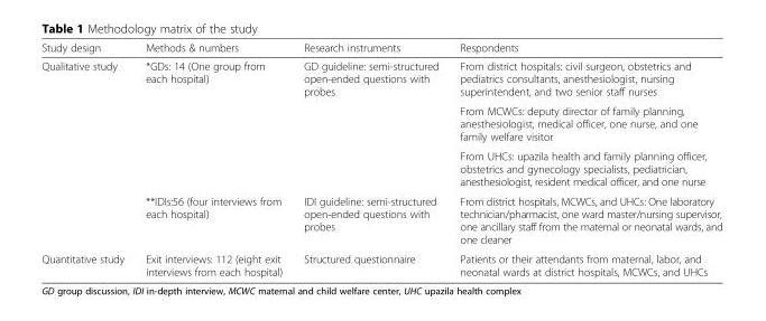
<table><thead><tr><td>Study design</td><td>Methods &amp; numbers</td><td>Research instruments</td><td>Respondents</td></tr></thead><tbody><tr><td rowspan="4">Qualitative study</td><td rowspan="3">*GDs: 14 (One group from each hospital)</td><td rowspan="3">GD guideline: semi-structured open-ended questions with probes</td><td>From district hospitals: civil surgeon, obstetrics and pediatrics consultants, anesthesiologist, nursing superintendent, and two senior staff nurses</td></tr><tr><td>From MCWCs: deputy director of family planning, anesthesiologist, medical officer, one nurse, and one family welfare visitor</td></tr><tr><td>From UHCs: upazila health and family planning officer, obstetrics and gynecology specialists, pediatrician, anesthesiologist, resident medical officer, and one nurse</td></tr><tr><td>**IDIs:56 (four interviews from each hospital)</td><td>IDI guideline: semi-structured open-ended questions with probes</td><td>From district hospitals, MCWCs, and UHCs: One laboratory technician/pharmacist, one ward master/nursing supervisor, one ancillary staff from the maternal or neonatal wards, and one cleaner</td></tr><tr><td>Quantitative study</td><td>Exit interviews: 112 (eight exit interviews from each hospital)</td><td>Structured questionnaire</td><td>Patients or their attendants from maternal, labor, and neonatal wards at district hospitals, MCWCs, and UHCs</td></tr></tbody></table>